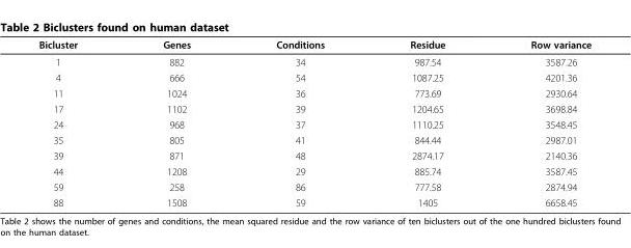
<table><thead><tr><td>Bicluster</td><td>Genes</td><td>Conditions</td><td>Residue</td><td>Row variance</td></tr></thead><tbody><tr><td>1</td><td>882</td><td>34</td><td>987.54</td><td>3587.26</td></tr><tr><td>4</td><td>666</td><td>54</td><td>1087.25</td><td>4201.36</td></tr><tr><td>11</td><td>1024</td><td>36</td><td>773.69</td><td>2930.64</td></tr><tr><td>17</td><td>1102</td><td>39</td><td>1204.65</td><td>3698.84</td></tr><tr><td>24</td><td>968</td><td>37</td><td>1110.25</td><td>3548.45</td></tr><tr><td>35</td><td>805</td><td>41</td><td>844.44</td><td>2987.01</td></tr><tr><td>39</td><td>871</td><td>48</td><td>2874.17</td><td>2140.36</td></tr><tr><td>44</td><td>1208</td><td>29</td><td>885.74</td><td>3587.45</td></tr><tr><td>59</td><td>258</td><td>86</td><td>777.58</td><td>2874.94</td></tr><tr><td>88</td><td>1508</td><td>59</td><td>1405</td><td>6658.45</td></tr></tbody></table>